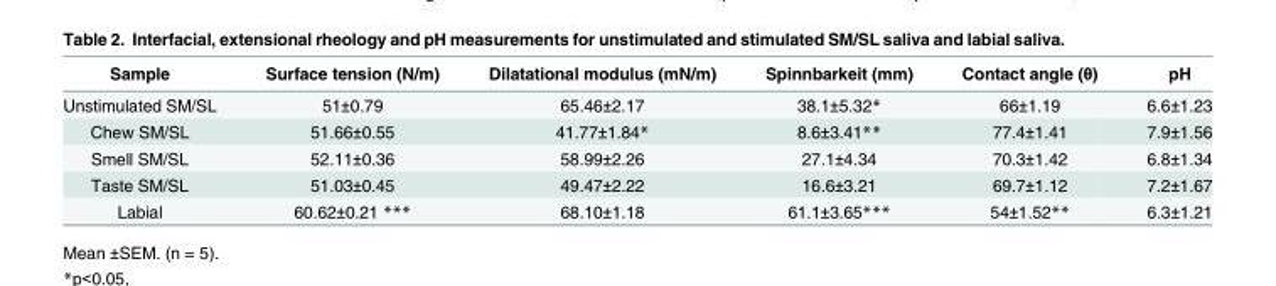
<table><thead><tr><td>Sample</td><td>Surface tension (N/m)</td><td>Dilatational modulus (mN/m)</td><td>Spinnbarkeit (mm)</td><td>Contact angle (θ)</td><td>pH</td></tr></thead><tbody><tr><td>Unstimulated SM/SL</td><td>51±0.79</td><td>65.46±2.17</td><td>38.1±5.32*</td><td>66±1.19</td><td>6.6±1.23</td></tr><tr><td>Chew SM/SL</td><td>51.66±0.55</td><td>41.77±1.84*</td><td>8.6±3.41**</td><td>77.4±1.41</td><td>7.9±1.56</td></tr><tr><td>Smell SM/SL</td><td>52.11±0.36</td><td>58.99±2.26</td><td>27.1±4.34</td><td>70.3±1.42</td><td>6.8±1.34</td></tr><tr><td>Taste SM/SL</td><td>51.03±0.45</td><td>49.47±2.22</td><td>16.6±3.21</td><td>69.7±1.12</td><td>7.2±1.67</td></tr><tr><td>Labial</td><td>60.62±0.21 ***</td><td>68.10±1.18</td><td>61.1±3.65***</td><td>54±1.52**</td><td>6.3±1.21</td></tr></tbody></table>